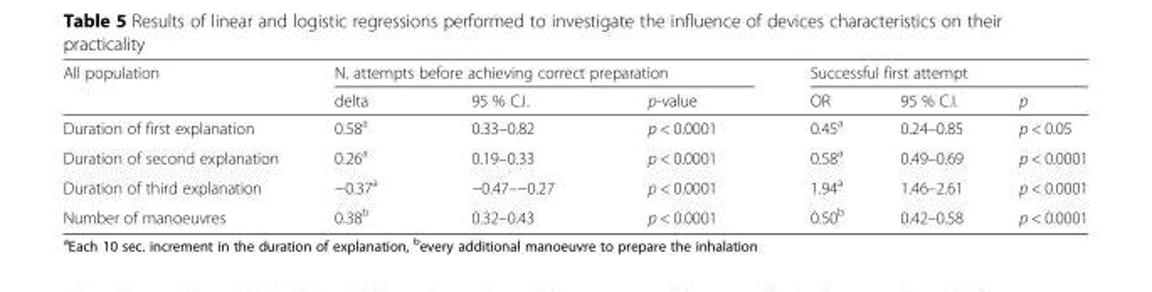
<table><thead><tr><td rowspan="2">All population</td><td colspan="3">N. attempts before achieving correct preparation</td><td colspan="3">Successful first attempt</td></tr><tr><td>delta</td><td>95 % C.I.</td><td>p-value</td><td>OR</td><td>95 % C.I.</td><td>p</td></tr></thead><tbody><tr><td>Duration of first explanation</td><td>0.58<sup>a</sup></td><td>0.33–0.82</td><td>p &lt; 0.0001</td><td>0.45<sup>a</sup></td><td>0.24–0.85</td><td>p &lt; 0.05</td></tr><tr><td>Duration of second explanation</td><td>0.26<sup>a</sup></td><td>0.19–0.33</td><td>p &lt; 0.0001</td><td>0.58<sup>a</sup></td><td>0.49–0.69</td><td>p &lt; 0.0001</td></tr><tr><td>Duration of third explanation</td><td>−0.37<sup>a</sup></td><td>−0.47–−0.27</td><td>p &lt; 0.0001</td><td>1.94<sup>a</sup></td><td>1.46–2.61</td><td>p &lt; 0.0001</td></tr><tr><td>Number of manoeuvres</td><td>0.38<sup>b</sup></td><td>0.32–0.43</td><td>p &lt; 0.0001</td><td>0.50<sup>b</sup></td><td>0.42–0.58</td><td>p &lt; 0.0001</td></tr></tbody></table>